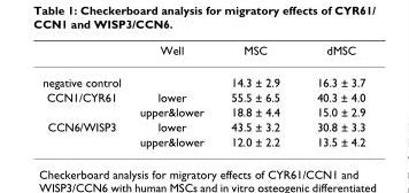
<table><thead><tr><td></td><td>Well</td><td>MSC</td><td>dMSC</td></tr></thead><tbody><tr><td>negative control</td><td></td><td>14.3 ± 2.9</td><td>16.3 ± 3.7</td></tr><tr><td rowspan="2">CCN1/CYR61</td><td>lower</td><td>55.5 ± 6.5</td><td>40.3 ± 4.0</td></tr><tr><td>upper&amp;lower</td><td>18.8 ± 4.4</td><td>15.0 ± 2.9</td></tr><tr><td rowspan="2">CCN6/WISP3</td><td>lower</td><td>43.5 ± 3.2</td><td>30.8 ± 3.3</td></tr><tr><td>upper&amp;lower</td><td>12.0 ± 2.2</td><td>13.5 ± 4.2</td></tr></tbody></table>